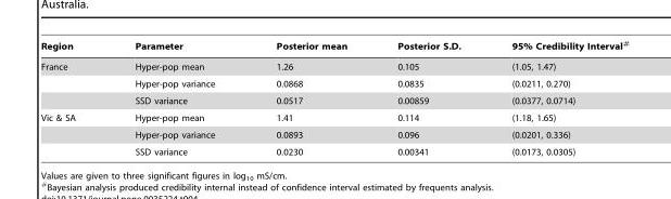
<table><thead><tr><td>Region</td><td>Parameter</td><td>Posterior mean</td><td>Posterior S.D.</td><td>95% Credibility Interval#</td></tr></thead><tbody><tr><td rowspan="3">France</td><td>Hyper-pop mean</td><td>1.26</td><td>0.105</td><td>(1.05, 1.47)</td></tr><tr><td>Hyper-pop variance</td><td>0.0868</td><td>0.0835</td><td>(0.0211, 0.270)</td></tr><tr><td>SSD variance</td><td>0.0517</td><td>0.00859</td><td>(0.0377, 0.0714)</td></tr><tr><td rowspan="3">Vic &amp; SA</td><td>Hyper-pop mean</td><td>1.41</td><td>0.114</td><td>(1.18, 1.65)</td></tr><tr><td>Hyper-pop variance</td><td>0.0893</td><td>0.096</td><td>(0.0201, 0.336)</td></tr><tr><td>SSD variance</td><td>0.0230</td><td>0.00341</td><td>(0.0173, 0.0305)</td></tr></tbody></table>